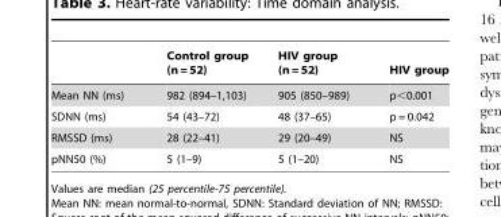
<table><thead><tr><td></td><td>Control group (n = 52)</td><td>HIV group (n = 52)</td><td>HIV group</td></tr></thead><tbody><tr><td>Mean NN (ms)</td><td>982 (894–1,103)</td><td>905 (850–989)</td><td>p&lt;0.001</td></tr><tr><td>SDNN (ms)</td><td>54 (43–72)</td><td>48 (37–65)</td><td>p = 0.042</td></tr><tr><td>RMSSD (ms)</td><td>28 (22–41)</td><td>29 (20–49)</td><td>NS</td></tr><tr><td>pNN50 (%)</td><td>5 (1–9)</td><td>5 (1–20)</td><td>NS</td></tr></tbody></table>